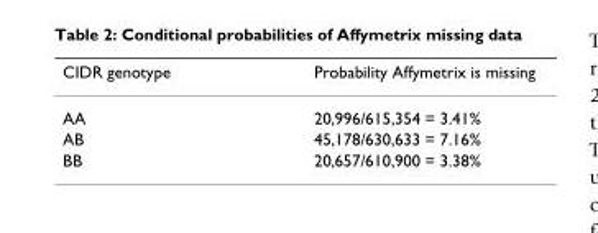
<table><thead><tr><td>CIDR genotype</td><td>Probability Affymetrix is missing</td></tr></thead><tbody><tr><td>AA</td><td>20,996/615,354 = 3.41%</td></tr><tr><td>AB</td><td>45,178/630,633 = 7.16%</td></tr><tr><td>BB</td><td>20,657/610,900 = 3.38%</td></tr></tbody></table>